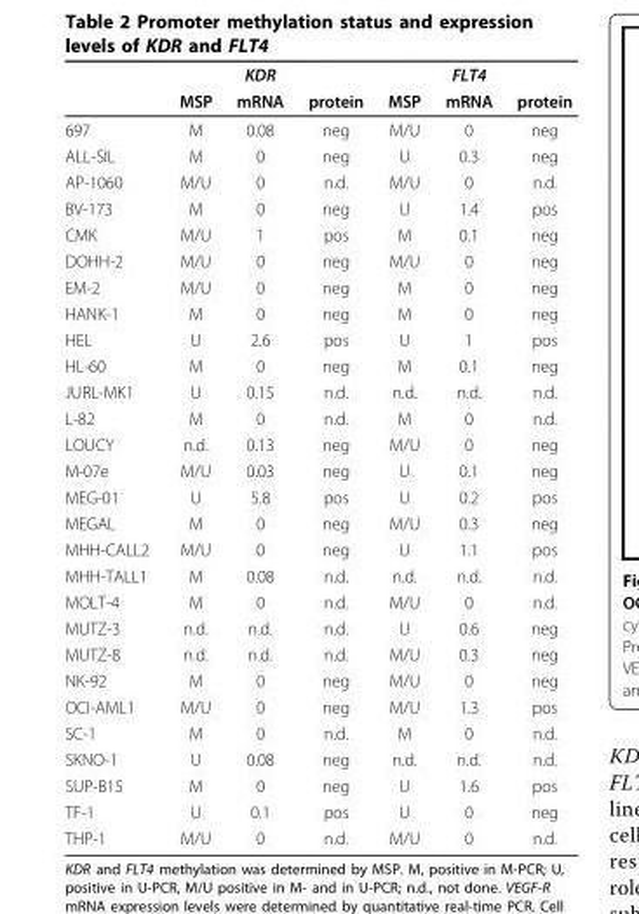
<table><thead><tr><td rowspan="2"></td><td rowspan="2">MSP</td><td rowspan="2">KDR mRNA</td><td rowspan="2">protein</td><td rowspan="2">MSP</td><td rowspan="2">FLT4 mRNA</td><td rowspan="2">protein</td></tr><tr></tr></thead><tbody><tr><td>697</td><td>M</td><td>0.08</td><td>neg</td><td>M/U</td><td>0</td><td>neg</td></tr><tr><td>ALL-SIL</td><td>M</td><td>0</td><td>neg</td><td>U</td><td>0.3</td><td>neg</td></tr><tr><td>AP-1060</td><td>M/U</td><td>0</td><td>n.d.</td><td>M/U</td><td>0</td><td>n.d.</td></tr><tr><td>BV-173</td><td>M</td><td>0</td><td>neg</td><td>U</td><td>1.4</td><td>pos</td></tr><tr><td>CMK</td><td>M/U</td><td>1</td><td>pos</td><td>M</td><td>0.1</td><td>neg</td></tr><tr><td>DOHH-2</td><td>M/U</td><td>0</td><td>neg</td><td>M/U</td><td>0</td><td>neg</td></tr><tr><td>EM-2</td><td>M/U</td><td>0</td><td>neg</td><td>M</td><td>0</td><td>neg</td></tr><tr><td>HANK-1</td><td>M</td><td>0</td><td>neg</td><td>M</td><td>0</td><td>neg</td></tr><tr><td>HEL</td><td>U</td><td>2.6</td><td>pos</td><td>U</td><td>1</td><td>pos</td></tr><tr><td>HL-60</td><td>M</td><td>0</td><td>neg</td><td>M</td><td>0.1</td><td>neg</td></tr><tr><td>JURL-MK1</td><td>U</td><td>0.15</td><td>n.d.</td><td>n.d.</td><td>n.d.</td><td>n.d.</td></tr><tr><td>L-82</td><td>M</td><td>0</td><td>n.d.</td><td>M</td><td>0</td><td>n.d.</td></tr><tr><td>LOUCY</td><td>n.d.</td><td>0.13</td><td>neg</td><td>M/U</td><td>0</td><td>neg</td></tr><tr><td>M-07e</td><td>M/U</td><td>0.03</td><td>neg</td><td>U</td><td>0.1</td><td>neg</td></tr><tr><td>MEG-01</td><td>U</td><td>5.8</td><td>pos</td><td>U</td><td>0.2</td><td>pos</td></tr><tr><td>MEGAL</td><td>M</td><td>0</td><td>neg</td><td>M/U</td><td>0.3</td><td>neg</td></tr><tr><td>MHH-CALL2</td><td>M/U</td><td>0</td><td>neg</td><td>U</td><td>1.1</td><td>pos</td></tr><tr><td>MHH-TALL1</td><td>M</td><td>0.08</td><td>n.d.</td><td>n.d.</td><td>n.d.</td><td>n.d.</td></tr><tr><td>MOLT-4</td><td>M</td><td>0</td><td>n.d.</td><td>M/U</td><td>0</td><td>n.d.</td></tr><tr><td>MUTZ-3</td><td>n.d.</td><td>n.d.</td><td>n.d.</td><td>U</td><td>0.6</td><td>neg</td></tr><tr><td>MUTZ-8</td><td>n.d.</td><td>n.d.</td><td>n.d.</td><td>M/U</td><td>0.3</td><td>neg</td></tr><tr><td>NK-92</td><td>M</td><td>0</td><td>neg</td><td>M/U</td><td>0</td><td>neg</td></tr><tr><td>OCI-AML1</td><td>M/U</td><td>0</td><td>neg</td><td>M/U</td><td>1.3</td><td>pos</td></tr><tr><td>SC-1</td><td>M</td><td>0</td><td>n.d.</td><td>M</td><td>0</td><td>n.d.</td></tr><tr><td>SKNO-1</td><td>U</td><td>0.08</td><td>neg</td><td>n.d.</td><td>n.d.</td><td>n.d.</td></tr><tr><td>SUP-B15</td><td>M</td><td>0</td><td>neg</td><td>U</td><td>1.6</td><td>pos</td></tr><tr><td>TF-1</td><td>U</td><td>0.1</td><td>pos</td><td>U</td><td>0</td><td>neg</td></tr><tr><td>THP-1</td><td>M/U</td><td>0</td><td>n.d.</td><td>M/U</td><td>0</td><td>n.d.</td></tr></tbody></table>